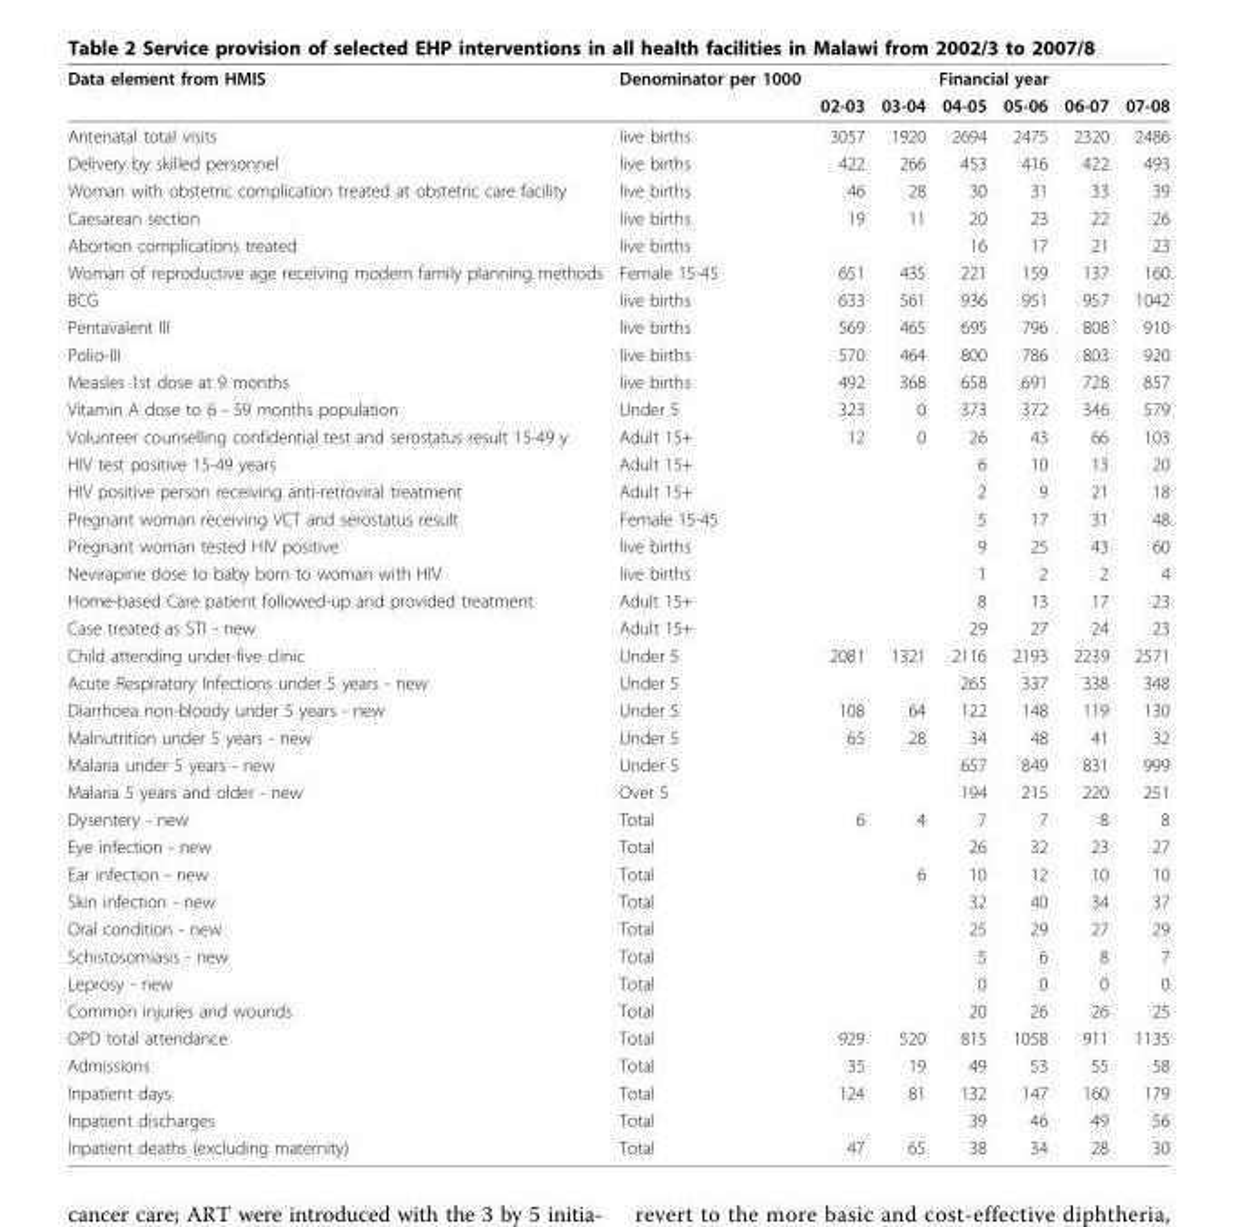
<table><thead><tr><td rowspan="2">Data element from HMIS</td><td rowspan="2">Denominator per 1000</td><td colspan="6">Financial year</td></tr><tr><td>02-03</td><td>03-04</td><td>04-05</td><td>05-06</td><td>06-07</td><td>07-08</td></tr></thead><tbody><tr><td>Antenatal total visits</td><td>live births</td><td>3057</td><td>1920</td><td>2694</td><td>2475</td><td>2320</td><td>2486</td></tr><tr><td>Delivery by skilled personnel</td><td>live births</td><td>422</td><td>266</td><td>453</td><td>416</td><td>422</td><td>493</td></tr><tr><td>Woman with obstetric complication treated at obstetric care facility</td><td>live births</td><td>46</td><td>28</td><td>30</td><td>31</td><td>33</td><td>39</td></tr><tr><td>Caesarean section</td><td>live births</td><td>19</td><td>11</td><td>20</td><td>23</td><td>22</td><td>26</td></tr><tr><td>Abortion complications treated</td><td>live births</td><td></td><td></td><td>16</td><td>17</td><td>21</td><td>23</td></tr><tr><td>Woman of reproductive age receiving modern family planning methods</td><td>Female 15-45</td><td>651</td><td>435</td><td>221</td><td>159</td><td>137</td><td>160</td></tr><tr><td>BCG</td><td>live births</td><td>633</td><td>561</td><td>936</td><td>951</td><td>957</td><td>1042</td></tr><tr><td>Pentavalent III</td><td>live births</td><td>569</td><td>465</td><td>695</td><td>796</td><td>808</td><td>910</td></tr><tr><td>Polio-III</td><td>live births</td><td>570</td><td>464</td><td>800</td><td>786</td><td>803</td><td>920</td></tr><tr><td>Measles 1st dose at 9 months</td><td>live births</td><td>492</td><td>368</td><td>658</td><td>691</td><td>728</td><td>857</td></tr><tr><td>Vitamin A dose to 6 - 59 months population</td><td>Under 5</td><td>323</td><td>0</td><td>373</td><td>372</td><td>346</td><td>579</td></tr><tr><td>Volunteer counselling confidential test and serostatus result 15-49 y</td><td>Adult 15+</td><td>12</td><td>0</td><td>26</td><td>43</td><td>66</td><td>103</td></tr><tr><td>HIV test positive 15-49 years</td><td>Adult 15+</td><td></td><td></td><td>6</td><td>10</td><td>13</td><td>20</td></tr><tr><td>HIV positive person receiving anti-retroviral treatment</td><td>Adult 15+</td><td></td><td></td><td>2</td><td>9</td><td>21</td><td>18</td></tr><tr><td>Pregnant woman receiving VCT and serostatus result</td><td>Female 15-45</td><td></td><td></td><td>5</td><td>17</td><td>31</td><td>48</td></tr><tr><td>Pregnant woman tested HIV positive</td><td>live births</td><td></td><td></td><td>9</td><td>25</td><td>43</td><td>60</td></tr><tr><td>Nevirapine dose to baby born to woman with HIV</td><td>live births</td><td></td><td></td><td>1</td><td>2</td><td>2</td><td>4</td></tr><tr><td>Home-based Care patient followed-up and provided treatment</td><td>Adult 15+</td><td></td><td></td><td>8</td><td>13</td><td>17</td><td>23</td></tr><tr><td>Case treated as STI - new</td><td>Adult 15+</td><td></td><td></td><td>29</td><td>27</td><td>24</td><td>23</td></tr><tr><td>Child attending under-five clinic</td><td>Under 5</td><td>2081</td><td>1321</td><td>2116</td><td>2193</td><td>2239</td><td>2571</td></tr><tr><td>Acute Respiratory Infections under 5 years - new</td><td>Under 5</td><td></td><td></td><td>265</td><td>337</td><td>338</td><td>348</td></tr><tr><td>Diarrhoea non-bloody under 5 years - new</td><td>Under 5</td><td>108</td><td>64</td><td>122</td><td>148</td><td>119</td><td>130</td></tr><tr><td>Malnutrition under 5 years - new</td><td>Under 5</td><td>65</td><td>28</td><td>34</td><td>48</td><td>41</td><td>32</td></tr><tr><td>Malaria under 5 years - new</td><td>Under 5</td><td></td><td></td><td>657</td><td>849</td><td>831</td><td>999</td></tr><tr><td>Malaria 5 years and older - new</td><td>Over 5</td><td></td><td></td><td>194</td><td>215</td><td>220</td><td>251</td></tr><tr><td>Dysentery - new</td><td>Total</td><td>6</td><td>4</td><td>7</td><td>7</td><td>8</td><td>8</td></tr><tr><td>Eye infection - new</td><td>Total</td><td></td><td></td><td>26</td><td>32</td><td>23</td><td>27</td></tr><tr><td>Ear infection - new</td><td>Total</td><td></td><td>6</td><td>10</td><td>12</td><td>10</td><td>10</td></tr><tr><td>Skin infection - new</td><td>Total</td><td></td><td></td><td>32</td><td>40</td><td>34</td><td>37</td></tr><tr><td>Oral condition - new</td><td>Total</td><td></td><td></td><td>25</td><td>29</td><td>27</td><td>29</td></tr><tr><td>Schistosomiasis - new</td><td>Total</td><td></td><td></td><td>5</td><td>6</td><td>8</td><td>7</td></tr><tr><td>Leprosy - new</td><td>Total</td><td></td><td></td><td>0</td><td>0</td><td>0</td><td>0</td></tr><tr><td>Common injuries and wounds</td><td>Total</td><td></td><td></td><td>20</td><td>26</td><td>26</td><td>25</td></tr><tr><td>OPD total attendance</td><td>Total</td><td>929</td><td>520</td><td>815</td><td>1058</td><td>911</td><td>1135</td></tr><tr><td>Admissions</td><td>Total</td><td>35</td><td>19</td><td>49</td><td>53</td><td>55</td><td>58</td></tr><tr><td>Inpatient days</td><td>Total</td><td>124</td><td>81</td><td>132</td><td>147</td><td>160</td><td>179</td></tr><tr><td>Inpatient discharges</td><td>Total</td><td></td><td></td><td>39</td><td>46</td><td>49</td><td>56</td></tr><tr><td>Inpatient deaths (excluding maternity)</td><td>Total</td><td>47</td><td>65</td><td>38</td><td>34</td><td>28</td><td>30</td></tr></tbody></table>